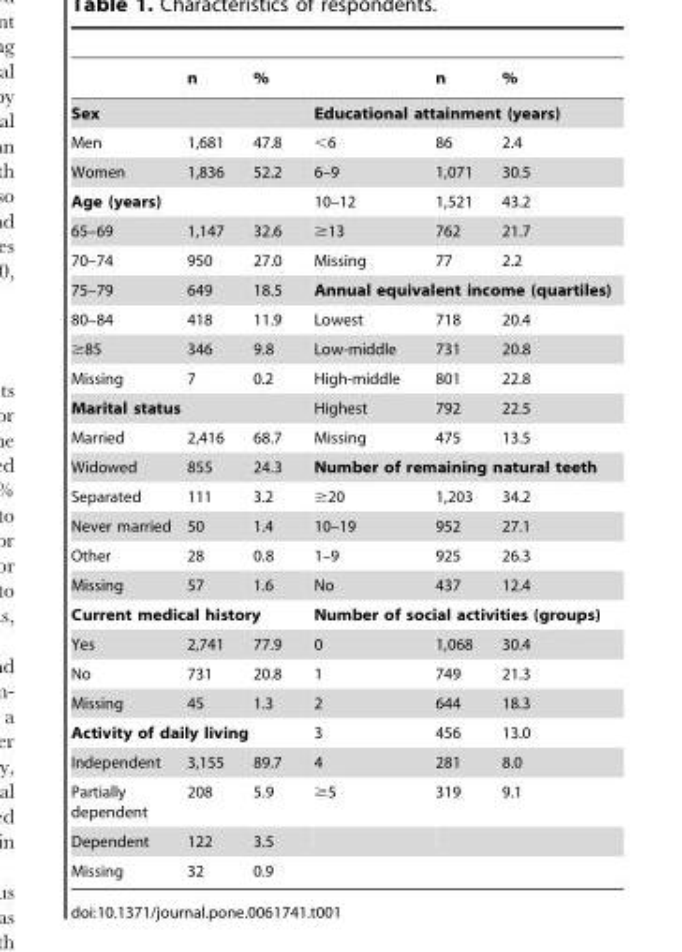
<table><thead><tr><td></td><td>n</td><td>%</td><td></td><td>n</td><td>%</td></tr></thead><tbody><tr><td colspan="3">Sex</td><td colspan="3">Educational attainment (years)</td></tr><tr><td>Men</td><td>1,681</td><td>47.8</td><td>&lt;6</td><td>86</td><td>2.4</td></tr><tr><td>Women</td><td>1,836</td><td>52.2</td><td>6–9</td><td>1,071</td><td>30.5</td></tr><tr><td colspan="3">Age (years)</td><td>10–12</td><td>1,521</td><td>43.2</td></tr><tr><td>65–69</td><td>1,147</td><td>32.6</td><td>≥13</td><td>762</td><td>21.7</td></tr><tr><td>70–74</td><td>950</td><td>27.0</td><td>Missing</td><td>77</td><td>2.2</td></tr><tr><td>75–79</td><td>649</td><td>18.5</td><td colspan="3">Annual equivalent income (quartiles)</td></tr><tr><td>80–84</td><td>418</td><td>11.9</td><td>Lowest</td><td>718</td><td>20.4</td></tr><tr><td>≥85</td><td>346</td><td>9.8</td><td>Low-middle</td><td>731</td><td>20.8</td></tr><tr><td>Missing</td><td>7</td><td>0.2</td><td>High-middle</td><td>801</td><td>22.8</td></tr><tr><td colspan="3">Marital status</td><td>Highest</td><td>792</td><td>22.5</td></tr><tr><td>Married</td><td>2,416</td><td>68.7</td><td>Missing</td><td>475</td><td>13.5</td></tr><tr><td>Widowed</td><td>855</td><td>24.3</td><td colspan="3">Number of remaining natural teeth</td></tr><tr><td>Separated</td><td>111</td><td>3.2</td><td>≥20</td><td>1,203</td><td>34.2</td></tr><tr><td>Never married</td><td>50</td><td>1.4</td><td>10–19</td><td>952</td><td>27.1</td></tr><tr><td>Other</td><td>28</td><td>0.8</td><td>1–9</td><td>925</td><td>26.3</td></tr><tr><td>Missing</td><td>57</td><td>1.6</td><td>No</td><td>437</td><td>12.4</td></tr><tr><td colspan="3">Current medical history</td><td colspan="3">Number of social activities (groups)</td></tr><tr><td>Yes</td><td>2,741</td><td>77.9</td><td>0</td><td>1,068</td><td>30.4</td></tr><tr><td>No</td><td>731</td><td>20.8</td><td>1</td><td>749</td><td>21.3</td></tr><tr><td>Missing</td><td>45</td><td>1.3</td><td>2</td><td>644</td><td>18.3</td></tr><tr><td colspan="3">Activity of daily living</td><td>3</td><td>456</td><td>13.0</td></tr><tr><td>Independent</td><td>3,155</td><td>89.7</td><td>4</td><td>281</td><td>8.0</td></tr><tr><td>Partially dependent</td><td>208</td><td>5.9</td><td>≥5</td><td>319</td><td>9.1</td></tr><tr><td>Dependent</td><td>122</td><td>3.5</td><td></td><td></td><td></td></tr><tr><td>Missing</td><td>32</td><td>0.9</td><td></td><td></td><td></td></tr></tbody></table>